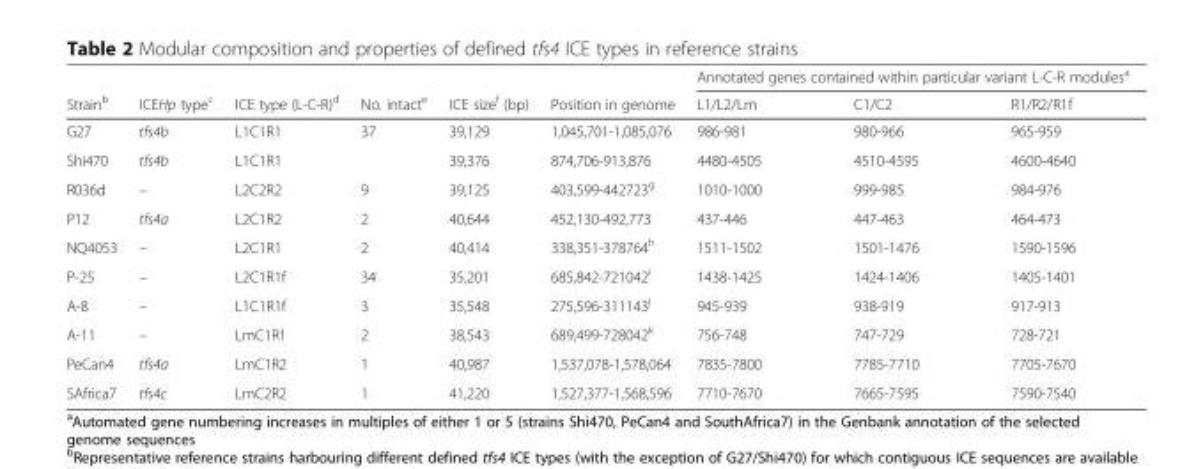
<table><thead><tr><td rowspan="2">Strain<sup>b</sup></td><td rowspan="2">ICEHp type<sup>c</sup></td><td rowspan="2">ICE type (L-C-R)<sup>d</sup></td><td rowspan="2">No. intact<sup>e</sup></td><td rowspan="2">ICE size<sup>f</sup> (bp)</td><td rowspan="2">Position in genome</td><td colspan="3">Annotated genes contained within particular variant L-C-R modules<sup>a</sup></td></tr><tr><td>L1/L2/Lm</td><td>C1/C2</td><td>R1/R2/R1f</td></tr></thead><tbody><tr><td>G27</td><td>tfs4b</td><td>L1C1R1</td><td rowspan="2">37</td><td>39,129</td><td>1,045,701-1,085,076</td><td>986-981</td><td>980-966</td><td>965-959</td></tr><tr><td>Shi470</td><td>tfs4b</td><td>L1C1R1</td><td>39,376</td><td>874,706-913,876</td><td>4480-4505</td><td>4510-4595</td><td>4600-4640</td></tr><tr><td>R036d</td><td>–</td><td>L2C2R2</td><td>9</td><td>39,125</td><td>403,599-442723<sup>g</sup></td><td>1010-1000</td><td>999-985</td><td>984-976</td></tr><tr><td>P12</td><td>tfs4a</td><td>L2C1R2</td><td>2</td><td>40,644</td><td>452,130-492,773</td><td>437-446</td><td>447-463</td><td>464-473</td></tr><tr><td>NQ4053</td><td>–</td><td>L2C1R1</td><td>2</td><td>40,414</td><td>338,351-378764<sup>h</sup></td><td>1511-1502</td><td>1501-1476</td><td>1590-1596</td></tr><tr><td>P-25</td><td>–</td><td>L2C1R1f</td><td>34</td><td>35,201</td><td>685,842-721042<sup>i</sup></td><td>1438-1425</td><td>1424-1406</td><td>1405-1401</td></tr><tr><td>A-8</td><td>–</td><td>L1C1R1f</td><td>3</td><td>35,548</td><td>275,596-311143<sup>j</sup></td><td>945-939</td><td>938-919</td><td>917-913</td></tr><tr><td>A-11</td><td>–</td><td>LmC1R1</td><td>2</td><td>38,543</td><td>689,499-728042<sup>k</sup></td><td>756-748</td><td>747-729</td><td>728-721</td></tr><tr><td>PeCan4</td><td>tfs4a</td><td>LmC1R2</td><td>1</td><td>40,987</td><td>1,537,078-1,578,064</td><td>7835-7800</td><td>7785-7710</td><td>7705-7670</td></tr><tr><td>SAfrica7</td><td>tfs4c</td><td>LmC2R2</td><td>1</td><td>41,220</td><td>1,527,377-1,568,596</td><td>7710-7670</td><td>7665-7595</td><td>7590-7540</td></tr></tbody></table>